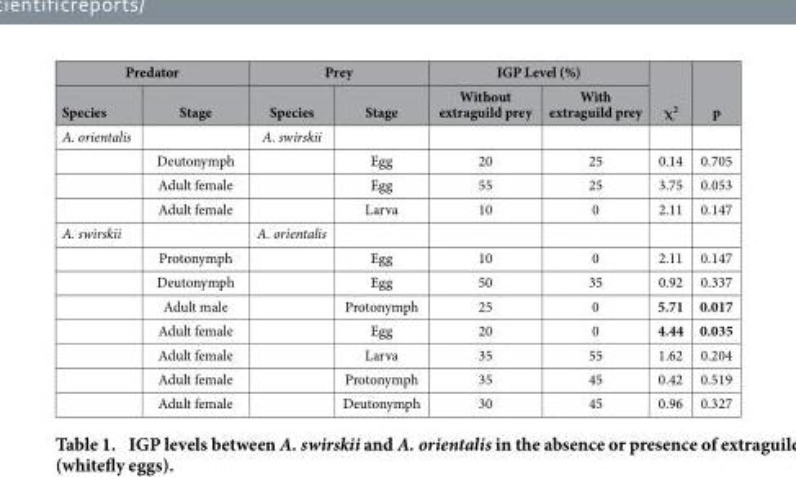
<table><thead><tr><td colspan="2">Predator</td><td colspan="2">Prey</td><td colspan="2">IGP Level (%)</td><td rowspan="2">χ<sup>2</sup></td><td rowspan="2">p</td></tr><tr><td>Species</td><td>Stage</td><td>Species</td><td>Stage</td><td>Without extraguild prey</td><td>With extraguild prey</td></tr></thead><tbody><tr><td rowspan="4">A. orientalis</td><td></td><td>A. swirskii</td><td></td><td></td><td></td><td></td><td></td></tr><tr><td>Deutonymph</td><td></td><td>Egg</td><td>20</td><td>25</td><td>0.14</td><td>0.705</td></tr><tr><td>Adult female</td><td></td><td>Egg</td><td>55</td><td>25</td><td>3.75</td><td>0.053</td></tr><tr><td>Adult female</td><td></td><td>Larva</td><td>10</td><td>0</td><td>2.11</td><td>0.147</td></tr><tr><td rowspan="8">A. swirskii</td><td></td><td>A. orientalis</td><td></td><td></td><td></td><td></td><td></td></tr><tr><td>Protonymph</td><td></td><td>Egg</td><td>10</td><td>0</td><td>2.11</td><td>0.147</td></tr><tr><td>Deutonymph</td><td></td><td>Egg</td><td>50</td><td>35</td><td>0.92</td><td>0.337</td></tr><tr><td>Adult male</td><td></td><td>Protonymph</td><td>25</td><td>0</td><td>5.71</td><td>0.017</td></tr><tr><td>Adult female</td><td></td><td>Egg</td><td>20</td><td>0</td><td>4.44</td><td>0.035</td></tr><tr><td>Adult female</td><td></td><td>Larva</td><td>35</td><td>55</td><td>1.62</td><td>0.204</td></tr><tr><td>Adult female</td><td></td><td>Protonymph</td><td>35</td><td>45</td><td>0.42</td><td>0.519</td></tr><tr><td>Adult female</td><td></td><td>Deutonymph</td><td>30</td><td>45</td><td>0.96</td><td>0.327</td></tr></tbody></table>